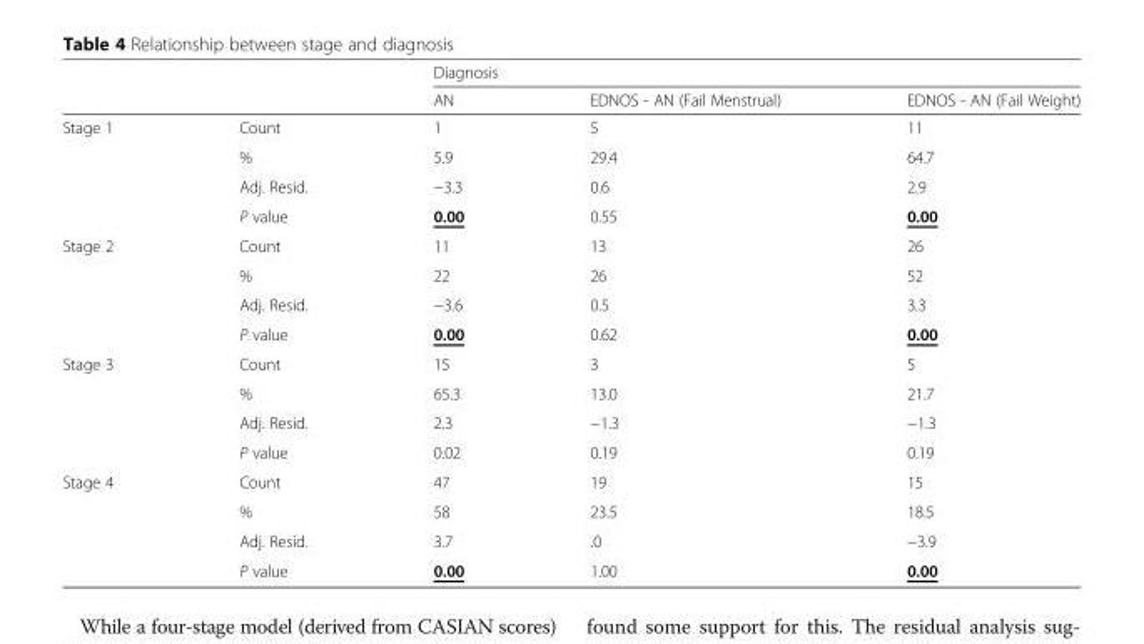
<table><thead><tr><td rowspan="2"></td><td rowspan="2"></td><td colspan="3">Diagnosis</td></tr><tr><td>AN</td><td>EDNOS - AN (Fail Menstrual)</td><td>EDNOS - AN (Fail Weight)</td></tr></thead><tbody><tr><td rowspan="4">Stage 1</td><td>Count</td><td>1</td><td>5</td><td>11</td></tr><tr><td>%</td><td>5.9</td><td>29.4</td><td>64.7</td></tr><tr><td>Adj. Resid.</td><td>−3.3</td><td>0.6</td><td>2.9</td></tr><tr><td>P value</td><td>0.00</td><td>0.55</td><td>0.00</td></tr><tr><td rowspan="4">Stage 2</td><td>Count</td><td>11</td><td>13</td><td>26</td></tr><tr><td>%</td><td>22</td><td>26</td><td>52</td></tr><tr><td>Adj. Resid.</td><td>−3.6</td><td>0.5</td><td>3.3</td></tr><tr><td>P value</td><td>0.00</td><td>0.62</td><td>0.00</td></tr><tr><td rowspan="4">Stage 3</td><td>Count</td><td>15</td><td>3</td><td>5</td></tr><tr><td>%</td><td>65.3</td><td>13.0</td><td>21.7</td></tr><tr><td>Adj. Resid.</td><td>2.3</td><td>−1.3</td><td>−1.3</td></tr><tr><td>P value</td><td>0.02</td><td>0.19</td><td>0.19</td></tr><tr><td rowspan="4">Stage 4</td><td>Count</td><td>47</td><td>19</td><td>15</td></tr><tr><td>%</td><td>58</td><td>23.5</td><td>18.5</td></tr><tr><td>Adj. Resid.</td><td>3.7</td><td>.0</td><td>−3.9</td></tr><tr><td>P value</td><td>0.00</td><td>1.00</td><td>0.00</td></tr></tbody></table>